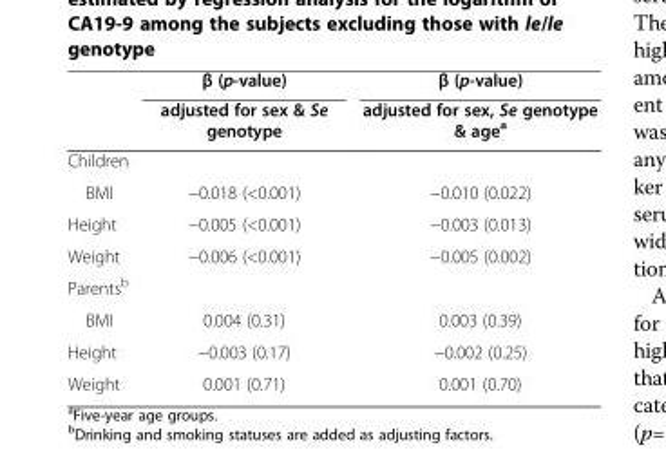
<table><thead><tr><td rowspan="2"></td><td rowspan="2">β (p-value) adjusted for sex &amp; Se genotype</td><td rowspan="2">β (p-value) adjusted for sex, Se genotype &amp; age<sup>a</sup></td></tr><tr></tr></thead><tbody><tr><td colspan="3">Children</td></tr><tr><td>BMI</td><td>−0.018 (&lt;0.001)</td><td>−0.010 (0.022)</td></tr><tr><td>Height</td><td>−0.005 (&lt;0.001)</td><td>−0.003 (0.013)</td></tr><tr><td>Weight</td><td>−0.006 (&lt;0.001)</td><td>−0.005 (0.002)</td></tr><tr><td colspan="3">Parents<sup>b</sup></td></tr><tr><td>BMI</td><td>0.004 (0.31)</td><td>0.003 (0.39)</td></tr><tr><td>Height</td><td>−0.003 (0.17)</td><td>−0.002 (0.25)</td></tr><tr><td>Weight</td><td>0.001 (0.71)</td><td>0.001 (0.70)</td></tr></tbody></table>